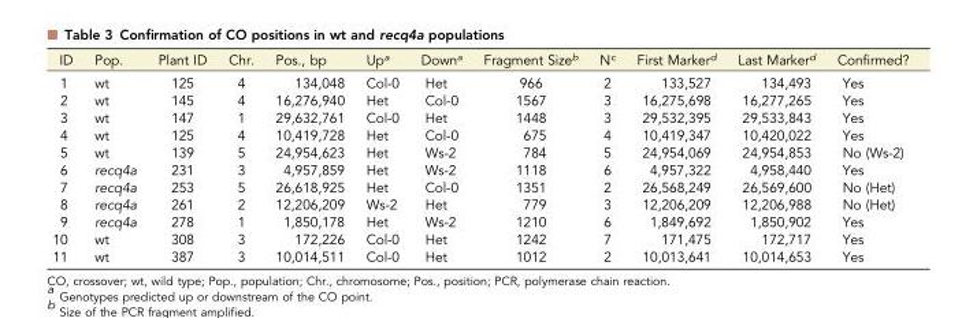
<table><thead><tr><td>ID</td><td>Pop.</td><td>Plant ID</td><td>Chr.</td><td>Pos., bp</td><td>Up<sup>a</sup></td><td>Down<sup>a</sup></td><td>Fragment Size<sup>b</sup></td><td>N<sup>c</sup></td><td>First Marker<sup>d</sup></td><td>Last Marker<sup>d</sup></td><td>Confirmed?</td></tr></thead><tbody><tr><td>1</td><td>wt</td><td>125</td><td>4</td><td>134,048</td><td>Col-0</td><td>Het</td><td>966</td><td>2</td><td>133,527</td><td>134,493</td><td>Yes</td></tr><tr><td>2</td><td>wt</td><td>145</td><td>4</td><td>16,276,940</td><td>Het</td><td>Col-0</td><td>1567</td><td>3</td><td>16,275,698</td><td>16,277,265</td><td>Yes</td></tr><tr><td>3</td><td>wt</td><td>147</td><td>1</td><td>29,632,761</td><td>Col-0</td><td>Het</td><td>1448</td><td>3</td><td>29,532,395</td><td>29,533,843</td><td>Yes</td></tr><tr><td>4</td><td>wt</td><td>125</td><td>4</td><td>10,419,728</td><td>Het</td><td>Col-0</td><td>675</td><td>4</td><td>10,419,347</td><td>10,420,022</td><td>Yes</td></tr><tr><td>5</td><td>wt</td><td>139</td><td>5</td><td>24,954,623</td><td>Het</td><td>Ws-2</td><td>784</td><td>5</td><td>24,954,069</td><td>24,954,853</td><td>No (Ws-2)</td></tr><tr><td>6</td><td>recq4a</td><td>231</td><td>3</td><td>4,957,859</td><td>Het</td><td>Ws-2</td><td>1118</td><td>6</td><td>4,957,322</td><td>4,958,440</td><td>Yes</td></tr><tr><td>7</td><td>recq4a</td><td>253</td><td>5</td><td>26,618,925</td><td>Het</td><td>Col-0</td><td>1351</td><td>2</td><td>26,568,249</td><td>26,569,600</td><td>No (Het)</td></tr><tr><td>8</td><td>recq4a</td><td>261</td><td>2</td><td>12,206,209</td><td>Ws-2</td><td>Het</td><td>779</td><td>3</td><td>12,206,209</td><td>12,206,988</td><td>No (Het)</td></tr><tr><td>9</td><td>recq4a</td><td>278</td><td>1</td><td>1,850,178</td><td>Het</td><td>Ws-2</td><td>1210</td><td>6</td><td>1,849,692</td><td>1,850,902</td><td>Yes</td></tr><tr><td>10</td><td>wt</td><td>308</td><td>3</td><td>172,226</td><td>Col-0</td><td>Het</td><td>1242</td><td>7</td><td>171,475</td><td>172,717</td><td>Yes</td></tr><tr><td>11</td><td>wt</td><td>387</td><td>3</td><td>10,014,511</td><td>Col-0</td><td>Het</td><td>1012</td><td>2</td><td>10,013,641</td><td>10,014,653</td><td>Yes</td></tr></tbody></table>